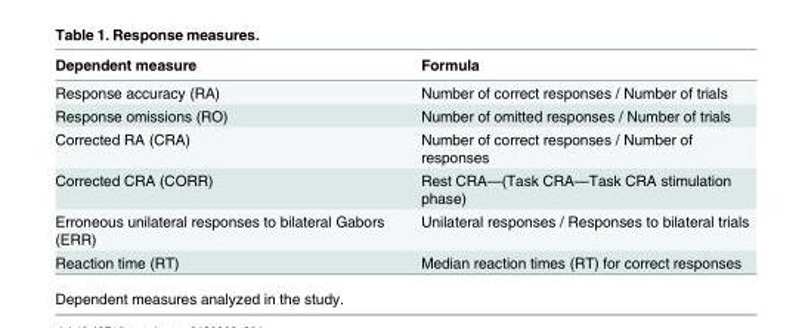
<table><thead><tr><td>Dependent measure</td><td>Formula</td></tr></thead><tbody><tr><td>Response accuracy (RA)</td><td>Number of correct responses / Number of trials</td></tr><tr><td>Response omissions (RO)</td><td>Number of omitted responses / Number of trials</td></tr><tr><td>Corrected RA (CRA)</td><td>Number of correct responses / Number of responses</td></tr><tr><td>Corrected CRA (CORR)</td><td>Rest CRA—(Task CRA—Task CRA stimulation phase)</td></tr><tr><td>Erroneous unilateral responses to bilateral Gabors (ERR)</td><td>Unilateral responses / Responses to bilateral trials</td></tr><tr><td>Reaction time (RT)</td><td>Median reaction times (RT) for correct responses</td></tr></tbody></table>